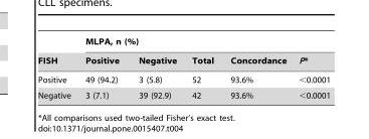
<table><thead><tr><td rowspan="2">FISH</td><td colspan="5">MLPA, n (%)</td></tr><tr><td>Positive</td><td>Negative</td><td>Total</td><td>Concordance</td><td>P*</td></tr></thead><tbody><tr><td>Positive</td><td>49 (94.2)</td><td>3 (5.8)</td><td>52</td><td>93.6%</td><td>&lt;0.0001</td></tr><tr><td>Negative</td><td>3 (7.1)</td><td>39 (92.9)</td><td>42</td><td>93.6%</td><td>&lt;0.0001</td></tr></tbody></table>